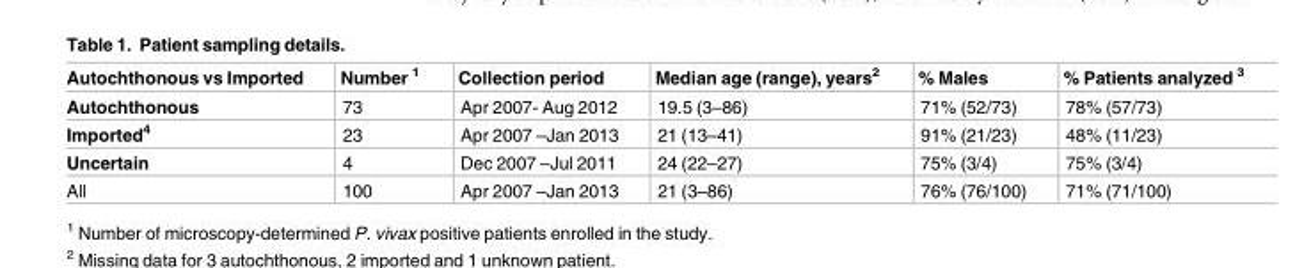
<table><thead><tr><td>Autochthonous vs Imported</td><td>Number <sup>1</sup></td><td>Collection period</td><td>Median age (range), years<sup>2</sup></td><td>% Males</td><td>% Patients analyzed <sup>3</sup></td></tr></thead><tbody><tr><td>Autochthonous</td><td>73</td><td>Apr 2007- Aug 2012</td><td>19.5 (3–86)</td><td>71% (52/73)</td><td>78% (57/73)</td></tr><tr><td>Imported<sup>4</sup></td><td>23</td><td>Apr 2007 –Jan 2013</td><td>21 (13–41)</td><td>91% (21/23)</td><td>48% (11/23)</td></tr><tr><td>Uncertain</td><td>4</td><td>Dec 2007 –Jul 2011</td><td>24 (22–27)</td><td>75% (3/4)</td><td>75% (3/4)</td></tr><tr><td>All</td><td>100</td><td>Apr 2007 –Jan 2013</td><td>21 (3–86)</td><td>76% (76/100)</td><td>71% (71/100)</td></tr></tbody></table>